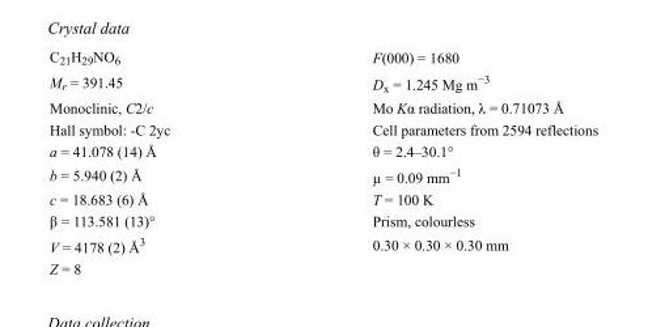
<table><tbody><tr><td>C<sub>21</sub>H<sub>29</sub>NO<sub>6</sub></td><td>F(000) = 1680</td></tr><tr><td>M<sub>r</sub> = 391.45</td><td>D<sub>x</sub> = 1.245 Mg m<sup>−3</sup></td></tr><tr><td>Monoclinic, C2/c</td><td>Mo Kα radiation, λ = 0.71073 Å</td></tr><tr><td>Hall symbol: -C 2yc</td><td>Cell parameters from 2594 reflections</td></tr><tr><td>a = 41.078 (14) Å</td><td>θ = 2.4–30.1°</td></tr><tr><td>b = 5.940 (2) Å</td><td>µ = 0.09 mm<sup>−1</sup></td></tr><tr><td>c = 18.683 (6) Å</td><td>T = 100 K</td></tr><tr><td>β = 113.581 (13)°</td><td>Prism, colourless</td></tr><tr><td>V = 4178 (2) Å<sup>3</sup></td><td>0.30 × 0.30 × 0.30 mm</td></tr><tr><td>Z = 8</td><td></td></tr></tbody></table>